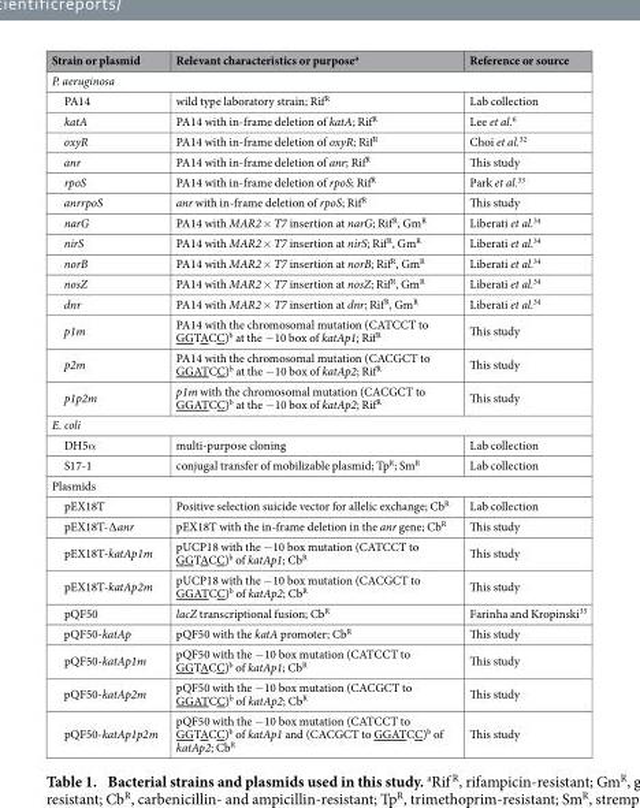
<table><thead><tr><td>Strain or plasmid</td><td>Relevant characteristics or purpose<sup>a</sup></td><td>Reference or source</td></tr></thead><tbody><tr><td colspan="3">P. aeruginosa</td></tr><tr><td>PA14</td><td>wild type laboratory strain; Rif<sup>R</sup></td><td>Lab collection</td></tr><tr><td>katA</td><td>PA14 with in-frame deletion of katA; Rif<sup>R</sup></td><td>Lee et al.<sup>6</sup></td></tr><tr><td>oxyR</td><td>PA14 with in-frame deletion of oxyR; Rif<sup>R</sup></td><td>Choi et al.<sup>32</sup></td></tr><tr><td>anr</td><td>PA14 with in-frame deletion of anr; Rif<sup>R</sup></td><td>This study</td></tr><tr><td>rpoS</td><td>PA14 with in-frame deletion of rpoS; Rif<sup>R</sup></td><td>Park et al.<sup>33</sup></td></tr><tr><td>anrrpoS</td><td>anr with in-frame deletion of rpoS; Rif<sup>R</sup></td><td>This study</td></tr><tr><td>narG</td><td>PA14 with MAR2 × T7 insertion at narG; Rif<sup>R</sup>, Gm<sup>R</sup></td><td>Liberati et al.<sup>34</sup></td></tr><tr><td>nirS</td><td>PA14 with MAR2 × T7 insertion at nirS; Rif<sup>R</sup>, Gm<sup>R</sup></td><td>Liberati et al.<sup>34</sup></td></tr><tr><td>norB</td><td>PA14 with MAR2 × T7 insertion at norB; Rif<sup>R</sup>, Gm<sup>R</sup></td><td>Liberati et al.<sup>34</sup></td></tr><tr><td>nosZ</td><td>PA14 with MAR2 × T7 insertion at nosZ; Rif<sup>R</sup>, Gm<sup>R</sup></td><td>Liberati et al.<sup>34</sup></td></tr><tr><td>dnr</td><td>PA14 with MAR2 × T7 insertion at dnr; Rif<sup>R</sup>, Gm<sup>R</sup></td><td>Liberati et al.<sup>34</sup></td></tr><tr><td>p1m</td><td>PA14 with the chromosomal mutation (CATCCT to GGTACC)<sup>b</sup> at the − 10 box of katAp1; Rif<sup>R</sup></td><td>This study</td></tr><tr><td>p2m</td><td>PA14 with the chromosomal mutation (CACGCT to GGATCC)<sup>b</sup> at the − 10 box of katAp2; Rif<sup>R</sup></td><td>This study</td></tr><tr><td>p1p2m</td><td>p1m with the chromosomal mutation (CACGCT to GGATCC)<sup>b</sup> at the − 10 box of katAp2; Rif<sup>R</sup></td><td>This study</td></tr><tr><td colspan="3">E. coli</td></tr><tr><td>DH5α</td><td>multi-purpose cloning</td><td>Lab collection</td></tr><tr><td>S17-1</td><td>conjugal transfer of mobilizable plasmid; Tp<sup>R</sup>; Sm<sup>R</sup></td><td>Lab collection</td></tr><tr><td colspan="3">Plasmids</td></tr><tr><td>pEX18T</td><td>Positive selection suicide vector for allelic exchange; Cb<sup>R</sup></td><td>Lab collection</td></tr><tr><td>pEX18T-∆ anr</td><td>pEX18T with the in-frame deletion in the anr gene; Cb<sup>R</sup></td><td>This study</td></tr><tr><td>pEX18T-katAp1m</td><td>pUCP18 with the − 10 box mutation (CATCCT to GGTACC)<sup>b</sup> of katAp1; Cb<sup>R</sup></td><td>This study</td></tr><tr><td>pEX18T-katAp2m</td><td>pUCP18 with the − 10 box mutation (CACGCT to GGATCC)<sup>b</sup> of katAp2; Cb<sup>R</sup></td><td>This study</td></tr><tr><td>pQF50</td><td>lacZ transcriptional fusion; Cb<sup>R</sup></td><td>Farinha and Kropinski<sup>35</sup></td></tr><tr><td>pQF50-katAp</td><td>pQF50 with the katA promoter; Cb<sup>R</sup></td><td>This study</td></tr><tr><td>pQF50-katAp1m</td><td>pQF50 with the − 10 box mutation (CATCCT to GGTACC)<sup>b</sup> of katAp1; Cb<sup>R</sup></td><td>This study</td></tr><tr><td>pQF50-katAp2m</td><td>pQF50 with the − 10 box mutation (CACGCT to GGATCC)<sup>b</sup> of katAp2; Cb<sup>R</sup></td><td>This study</td></tr><tr><td>pQF50-katAp1p2m</td><td>pQF50 with the − 10 box mutation (CATCCT to GGTACC)<sup>b</sup> of katAp1 and (CACGCT to GGATCC)<sup>b</sup> of katAp2; Cb<sup>R</sup></td><td>This study</td></tr></tbody></table>